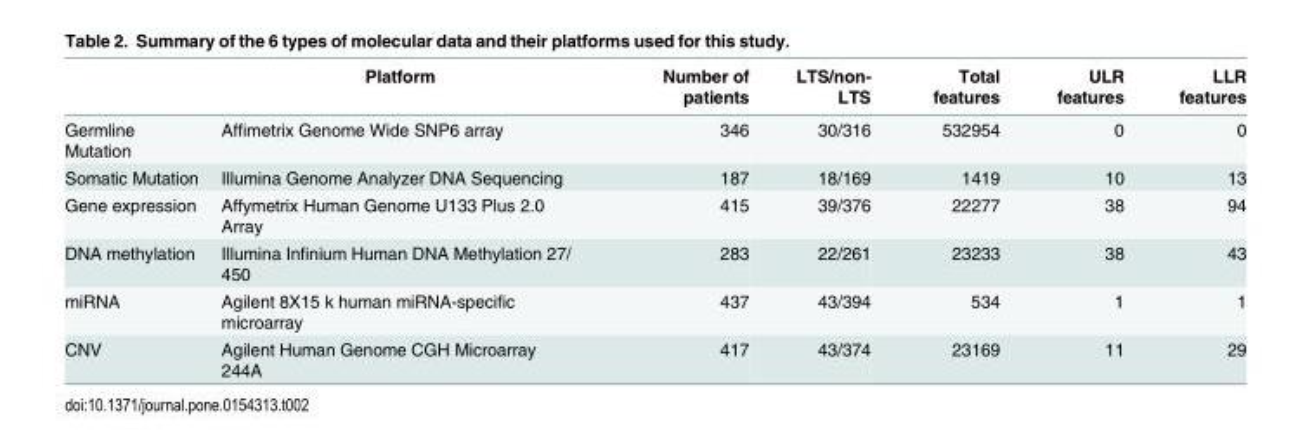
<table><thead><tr><td></td><td>Platform</td><td>Number of patients</td><td>LTS/non- LTS</td><td>Total features</td><td>ULR features</td><td>LLR features</td></tr></thead><tbody><tr><td>Germline Mutation</td><td>Affimetrix Genome Wide SNP6 array</td><td>346</td><td>30/316</td><td>532954</td><td>0</td><td>0</td></tr><tr><td>Somatic Mutation</td><td>Illumina Genome Analyzer DNA Sequencing</td><td>187</td><td>18/169</td><td>1419</td><td>10</td><td>13</td></tr><tr><td>Gene expression</td><td>Affymetrix Human Genome U133 Plus 2.0 Array</td><td>415</td><td>39/376</td><td>22277</td><td>38</td><td>94</td></tr><tr><td>DNA methylation</td><td>Illumina Infinium Human DNA Methylation 27/ 450</td><td>283</td><td>22/261</td><td>23233</td><td>38</td><td>43</td></tr><tr><td>miRNA</td><td>Agilent 8X15 k human miRNA-specific microarray</td><td>437</td><td>43/394</td><td>534</td><td>1</td><td>1</td></tr><tr><td>CNV</td><td>Agilent Human Genome CGH Microarray 244A</td><td>417</td><td>43/374</td><td>23169</td><td>11</td><td>29</td></tr></tbody></table>